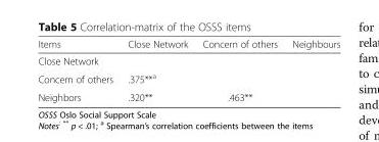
<table><thead><tr><td>Items</td><td>Close Network</td><td>Concern of others</td><td>Neighbours</td></tr></thead><tbody><tr><td colspan="4">Close Network</td></tr><tr><td>Concern of others</td><td>.375**<sup>a</sup></td><td></td><td></td></tr><tr><td>Neighbors</td><td>.320**</td><td>.463**</td><td></td></tr></tbody></table>